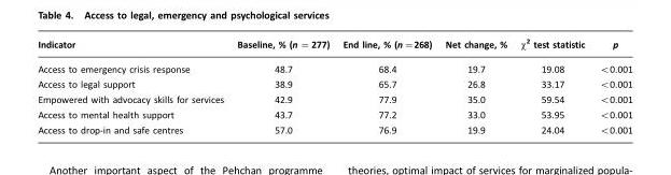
<table><thead><tr><td>Indicator</td><td>Baseline, % (n =277)</td><td>End line, % (n=268)</td><td>Net change, %</td><td>χ<sup>2</sup> test statistic</td><td>p</td></tr></thead><tbody><tr><td>Access to emergency crisis response</td><td>48.7</td><td>68.4</td><td>19.7</td><td>19.08</td><td>&lt;0.001</td></tr><tr><td>Access to legal support</td><td>38.9</td><td>65.7</td><td>26.8</td><td>33.17</td><td>&lt;0.001</td></tr><tr><td>Empowered with advocacy skills for services</td><td>42.9</td><td>77.9</td><td>35.0</td><td>59.54</td><td>&lt;0.001</td></tr><tr><td>Access to mental health support</td><td>43.7</td><td>77.2</td><td>33.0</td><td>53.95</td><td>&lt;0.001</td></tr><tr><td>Access to drop-in and safe centres</td><td>57.0</td><td>76.9</td><td>19.9</td><td>24.04</td><td>&lt;0.001</td></tr></tbody></table>